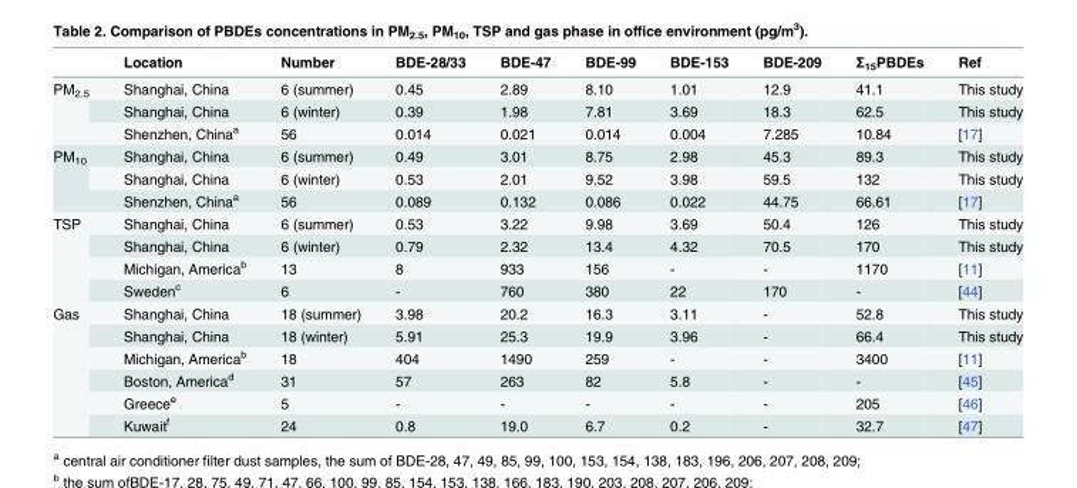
<table><thead><tr><td></td><td>Location</td><td>Number</td><td>BDE-28/33</td><td>BDE-47</td><td>BDE-99</td><td>BDE-153</td><td>BDE-209</td><td>Σ<sub>15</sub>PBDEs</td><td>Ref</td></tr></thead><tbody><tr><td rowspan="3">PM<sub>2.5</sub></td><td>Shanghai, China</td><td>6 (summer)</td><td>0.45</td><td>2.89</td><td>8.10</td><td>1.01</td><td>12.9</td><td>41.1</td><td>This study</td></tr><tr><td>Shanghai, China</td><td>6 (winter)</td><td>0.39</td><td>1.98</td><td>7.81</td><td>3.69</td><td>18.3</td><td>62.5</td><td>This study</td></tr><tr><td>Shenzhen, China<sup>a</sup></td><td>56</td><td>0.014</td><td>0.021</td><td>0.014</td><td>0.004</td><td>7.285</td><td>10.84</td><td>[17]</td></tr><tr><td rowspan="3">PM<sub>10</sub></td><td>Shanghai, China</td><td>6 (summer)</td><td>0.49</td><td>3.01</td><td>8.75</td><td>2.98</td><td>45.3</td><td>89.3</td><td>This study</td></tr><tr><td>Shanghai, China</td><td>6 (winter)</td><td>0.53</td><td>2.01</td><td>9.52</td><td>3.98</td><td>59.5</td><td>132</td><td>This study</td></tr><tr><td>Shenzhen, China<sup>a</sup></td><td>56</td><td>0.089</td><td>0.132</td><td>0.086</td><td>0.022</td><td>44.75</td><td>66.61</td><td>[17]</td></tr><tr><td rowspan="4">TSP</td><td>Shanghai, China</td><td>6 (summer)</td><td>0.53</td><td>3.22</td><td>9.98</td><td>3.69</td><td>50.4</td><td>126</td><td>This study</td></tr><tr><td>Shanghai, China</td><td>6 (winter)</td><td>0.79</td><td>2.32</td><td>13.4</td><td>4.32</td><td>70.5</td><td>170</td><td>This study</td></tr><tr><td>Michigan, America<sup>b</sup></td><td>13</td><td>8</td><td>933</td><td>156</td><td>-</td><td>-</td><td>1170</td><td>[11]</td></tr><tr><td>Sweden<sup>c</sup></td><td>6</td><td>-</td><td>760</td><td>380</td><td>22</td><td>170</td><td>-</td><td>[44]</td></tr><tr><td rowspan="6">Gas</td><td>Shanghai, China</td><td>18 (summer)</td><td>3.98</td><td>20.2</td><td>16.3</td><td>3.11</td><td>-</td><td>52.8</td><td>This study</td></tr><tr><td>Shanghai, China</td><td>18 (winter)</td><td>5.91</td><td>25.3</td><td>19.9</td><td>3.96</td><td>-</td><td>66.4</td><td>This study</td></tr><tr><td>Michigan, America<sup>b</sup></td><td>18</td><td>404</td><td>1490</td><td>259</td><td>-</td><td>-</td><td>3400</td><td>[11]</td></tr><tr><td>Boston, America<sup>d</sup></td><td>31</td><td>57</td><td>263</td><td>82</td><td>5.8</td><td>-</td><td>-</td><td>[45]</td></tr><tr><td>Greece<sup>e</sup></td><td>5</td><td>-</td><td>-</td><td>-</td><td>-</td><td>-</td><td>205</td><td>[46]</td></tr><tr><td>Kuwait<sup>f</sup></td><td>24</td><td>0.8</td><td>19.0</td><td>6.7</td><td>0.2</td><td>-</td><td>32.7</td><td>[47]</td></tr></tbody></table>